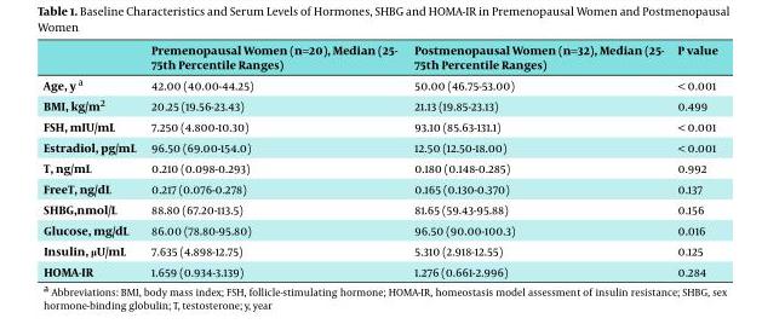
<table><thead><tr><td></td><td>Premenopausal Women (n=20), Median (25- 75th Percentile Ranges)</td><td>Postmenopausal Women (n=32), Median (25- 75th Percentile Ranges)</td><td>P value</td></tr></thead><tbody><tr><td>Age, y <sup>a</sup></td><td>42.00 (40.00-44.25)</td><td>50.00 (46.75-53.00)</td><td>&lt; 0.001</td></tr><tr><td>BMI, kg/m<sup>2</sup></td><td>20.25 (19.56-23.43)</td><td>21.13 (19.85-23.13)</td><td>0.499</td></tr><tr><td>FSH, mIU/mL</td><td>7.250 (4.800-10.30)</td><td>93.10 (85.63-131.1)</td><td>&lt; 0.001</td></tr><tr><td>Estradiol, pg/mL</td><td>96.50 (69.00-154.0)</td><td>12.50 (12.50-18.00)</td><td>&lt; 0.001</td></tr><tr><td>T, ng/mL</td><td>0.210 (0.098-0.293)</td><td>0.180 (0.148-0.285)</td><td>0.992</td></tr><tr><td>FreeT, ng/dL</td><td>0.217 (0.076-0.278)</td><td>0.165 (0.130-0.370)</td><td>0.137</td></tr><tr><td>SHBG,nmol/L</td><td>88.80 (67.20-113.5)</td><td>81.65 (59.43-95.88)</td><td>0.156</td></tr><tr><td>Glucose, mg/dL</td><td>86.00 (78.80-95.80)</td><td>96.50 (90.00-100.3)</td><td>0.016</td></tr><tr><td>Insulin, μU/mL</td><td>7.635 (4.898-12.75)</td><td>5.310 (2.918-12.55)</td><td>0.125</td></tr><tr><td>HOMA-IR</td><td>1.659 (0.934-3.139)</td><td>1.276 (0.661-2.996)</td><td>0.284</td></tr></tbody></table>